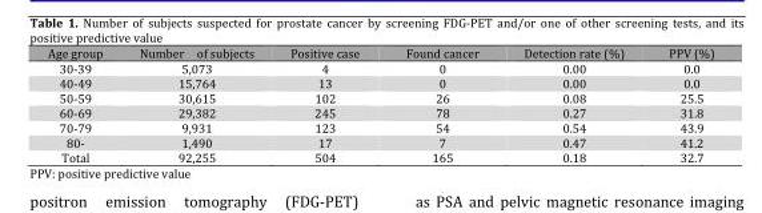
<table><thead><tr><td>Age group</td><td>Number of subjects</td><td>Positive case</td><td>Found cancer</td><td>Detection rate (%)</td><td>PPV (%)</td></tr></thead><tbody><tr><td>30-39</td><td>5,073</td><td>4</td><td>0</td><td>0.00</td><td>0.0</td></tr><tr><td>40-49</td><td>15,764</td><td>13</td><td>0</td><td>0.00</td><td>0.0</td></tr><tr><td>50-59</td><td>30,615</td><td>102</td><td>26</td><td>0.08</td><td>25.5</td></tr><tr><td>60-69</td><td>29,382</td><td>245</td><td>78</td><td>0.27</td><td>31.8</td></tr><tr><td>70-79</td><td>9,931</td><td>123</td><td>54</td><td>0.54</td><td>43.9</td></tr><tr><td>80-</td><td>1,490</td><td>17</td><td>7</td><td>0.47</td><td>41.2</td></tr><tr><td>Total</td><td>92,255</td><td>504</td><td>165</td><td>0.18</td><td>32.7</td></tr></tbody></table>